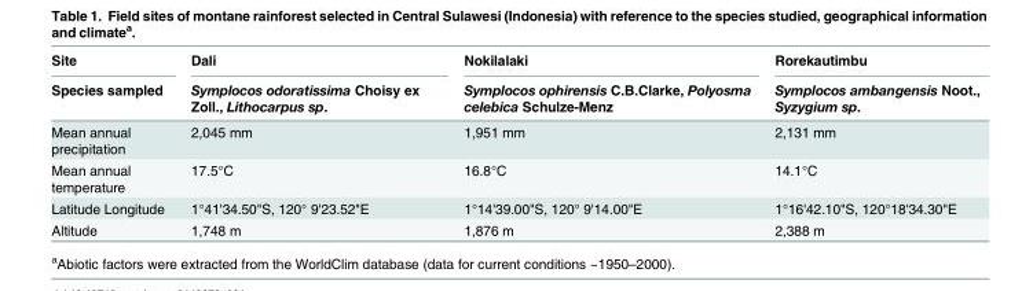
<table><thead><tr><td rowspan="2">Site Species sampled</td><td rowspan="2">Dali Symplocos odoratissima Choisy ex Zoll., Lithocarpus sp.</td><td rowspan="2">Nokilalaki Symplocos ophirensis C.B.Clarke, Polyosma celebica Schulze-Menz</td><td rowspan="2">Rorekautimbu Symplocos ambangensis Noot., Syzygium sp.</td></tr><tr></tr></thead><tbody><tr><td>Mean annual precipitation</td><td>2,045 mm</td><td>1,951 mm</td><td>2,131 mm</td></tr><tr><td>Mean annual temperature</td><td>17.5°C</td><td>16.8°C</td><td>14.1°C</td></tr><tr><td>Latitude Longitude</td><td>1°41&#x27;34.50&quot;S, 120° 9&#x27;23.52&quot;E</td><td>1°14&#x27;39.00&quot;S, 120° 9&#x27;14.00&quot;E</td><td>1°16&#x27;42.10&quot;S, 120°18&#x27;34.30&quot;E</td></tr><tr><td>Altitude</td><td>1,748 m</td><td>1,876 m</td><td>2,388 m</td></tr></tbody></table>